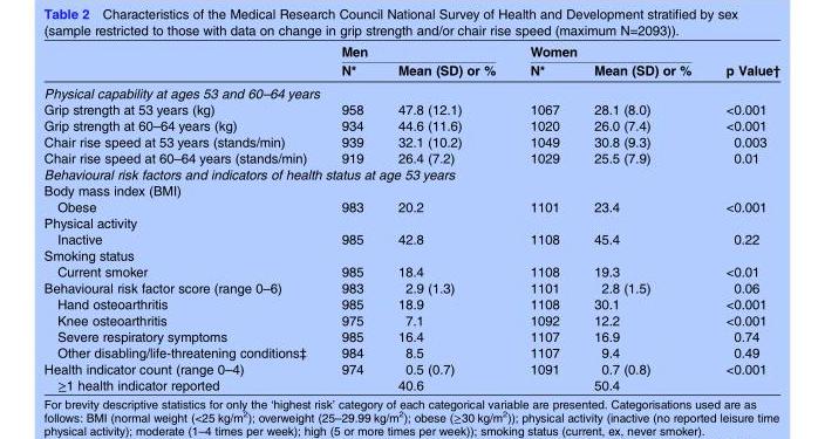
<table><thead><tr><td rowspan="2"></td><td colspan="2">Men</td><td colspan="2">Women</td><td rowspan="2">p Value†</td></tr><tr><td>N*</td><td>Mean (SD) or %</td><td>N*</td><td>Mean (SD) or %</td></tr></thead><tbody><tr><td colspan="6">Physical capability at ages 53 and 60–64 years</td></tr><tr><td>Grip strength at 53 years (kg)</td><td>958</td><td>47.8 (12.1)</td><td>1067</td><td>28.1 (8.0)</td><td>&lt;0.001</td></tr><tr><td>Grip strength at 60–64 years (kg)</td><td>934</td><td>44.6 (11.6)</td><td>1020</td><td>26.0 (7.4)</td><td>&lt;0.001</td></tr><tr><td>Chair rise speed at 53 years (stands/min)</td><td>939</td><td>32.1 (10.2)</td><td>1049</td><td>30.8 (9.3)</td><td>0.003</td></tr><tr><td>Chair rise speed at 60–64 years (stands/min)</td><td>919</td><td>26.4 (7.2)</td><td>1029</td><td>25.5 (7.9)</td><td>0.01</td></tr><tr><td colspan="6">Behavioural risk factors and indicators of health status at age 53 years</td></tr><tr><td colspan="6">Body mass index (BMI)</td></tr><tr><td>Obese</td><td>983</td><td>20.2</td><td>1101</td><td>23.4</td><td>&lt;0.001</td></tr><tr><td colspan="6">Physical activity</td></tr><tr><td>Inactive</td><td>985</td><td>42.8</td><td>1108</td><td>45.4</td><td>0.22</td></tr><tr><td colspan="6">Smoking status</td></tr><tr><td>Current smoker</td><td>985</td><td>18.4</td><td>1108</td><td>19.3</td><td>&lt;0.01</td></tr><tr><td>Behavioural risk factor score (range 0–6)</td><td>983</td><td>2.9 (1.3)</td><td>1101</td><td>2.8 (1.5)</td><td>0.06</td></tr><tr><td>Hand osteoarthritis</td><td>985</td><td>18.9</td><td>1108</td><td>30.1</td><td>&lt;0.001</td></tr><tr><td>Knee osteoarthritis</td><td>975</td><td>7.1</td><td>1092</td><td>12.2</td><td>&lt;0.001</td></tr><tr><td>Severe respiratory symptoms</td><td>985</td><td>16.4</td><td>1107</td><td>16.9</td><td>0.74</td></tr><tr><td>Other disabling/life-threatening conditions‡</td><td>984</td><td>8.5</td><td>1107</td><td>9.4</td><td>0.49</td></tr><tr><td>Health indicator count (range 0–4)</td><td>974</td><td>0.5 (0.7)</td><td>1091</td><td>0.7 (0.8)</td><td>&lt;0.001</td></tr><tr><td>≥1 health indicator reported</td><td></td><td>40.6</td><td></td><td>50.4</td><td></td></tr></tbody></table>